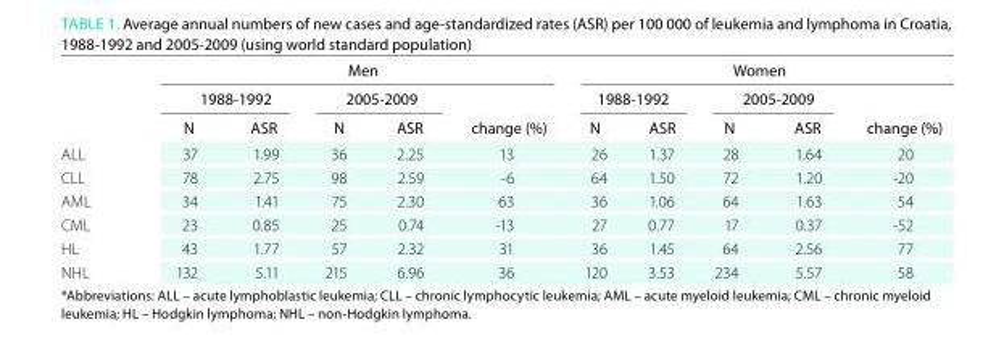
<table><thead><tr><td rowspan="3"></td><td colspan="5">Men</td><td colspan="5">Women</td></tr><tr><td colspan="2">1988-1992</td><td colspan="2">2005-2009</td><td rowspan="2">change (%)</td><td colspan="2">1988-1992</td><td colspan="2">2005-2009</td><td rowspan="2">change (%)</td></tr><tr><td>N</td><td>ASr</td><td>N</td><td>ASr</td><td>N</td><td>ASr</td><td>N</td><td>ASr</td></tr></thead><tbody><tr><td>ALL</td><td>37</td><td>1.99</td><td>36</td><td>2.25</td><td>13</td><td>26</td><td>1.37</td><td>28</td><td>1.64</td><td>20</td></tr><tr><td>CLL</td><td>78</td><td>2.75</td><td>98</td><td>2.59</td><td>-6</td><td>64</td><td>1.50</td><td>72</td><td>1.20</td><td>-20</td></tr><tr><td>AML</td><td>34</td><td>1.41</td><td>75</td><td>2.30</td><td>63</td><td>36</td><td>1.06</td><td>64</td><td>1.63</td><td>54</td></tr><tr><td>CML</td><td>23</td><td>0.85</td><td>25</td><td>0.74</td><td>-13</td><td>27</td><td>0.77</td><td>17</td><td>0.37</td><td>-52</td></tr><tr><td>HL</td><td>43</td><td>1.77</td><td>57</td><td>2.32</td><td>31</td><td>36</td><td>1.45</td><td>64</td><td>2.56</td><td>77</td></tr><tr><td>NHL</td><td>132</td><td>5.11</td><td>215</td><td>6.96</td><td>36</td><td>120</td><td>3.53</td><td>234</td><td>5.57</td><td>58</td></tr></tbody></table>